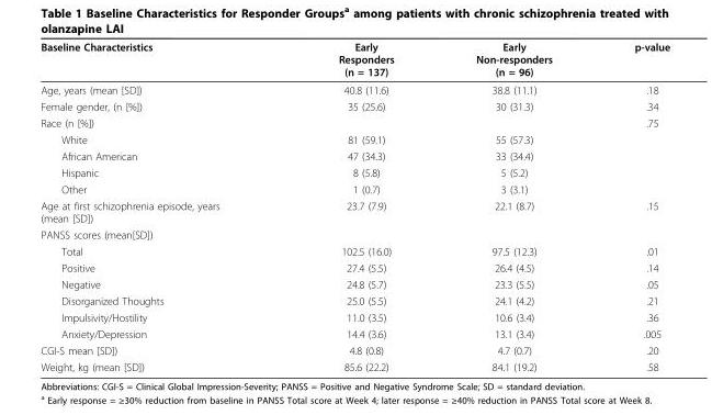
<table><thead><tr><td>Baseline Characteristics</td><td>Early Responders (n = 137)</td><td>Early Non-responders (n = 96)</td><td>p-value</td></tr></thead><tbody><tr><td>Age, years (mean [SD])</td><td>40.8 (11.6)</td><td>38.8 (11.1)</td><td>.18</td></tr><tr><td>Female gender, (n [%])</td><td>35 (25.6)</td><td>30 (31.3)</td><td>.34</td></tr><tr><td>Race (n [%])</td><td></td><td></td><td>.75</td></tr><tr><td>White</td><td>81 (59.1)</td><td>55 (57.3)</td><td></td></tr><tr><td>African American</td><td>47 (34.3)</td><td>33 (34.4)</td><td></td></tr><tr><td>Hispanic</td><td>8 (5.8)</td><td>5 (5.2)</td><td></td></tr><tr><td>Other</td><td>1 (0.7)</td><td>3 (3.1)</td><td></td></tr><tr><td>Age at first schizophrenia episode, years (mean [SD])</td><td>23.7 (7.9)</td><td>22.1 (8.7)</td><td>.15</td></tr><tr><td colspan="4">PANSS scores (mean[SD])</td></tr><tr><td>Total</td><td>102.5 (16.0)</td><td>97.5 (12.3)</td><td>.01</td></tr><tr><td>Positive</td><td>27.4 (5.5)</td><td>26.4 (4.5)</td><td>.14</td></tr><tr><td>Negative</td><td>24.8 (5.7)</td><td>23.3 (5.5)</td><td>.05</td></tr><tr><td>Disorganized Thoughts</td><td>25.0 (5.5)</td><td>24.1 (4.2)</td><td>.21</td></tr><tr><td>Impulsivity/Hostility</td><td>11.0 (3.5)</td><td>10.6 (3.4)</td><td>.36</td></tr><tr><td>Anxiety/Depression</td><td>14.4 (3.6)</td><td>13.1 (3.4)</td><td>.005</td></tr><tr><td>CGI-S mean [SD])</td><td>4.8 (0.8)</td><td>4.7 (0.7)</td><td>.20</td></tr><tr><td>Weight, kg (mean [SD])</td><td>85.6 (22.2)</td><td>84.1 (19.2)</td><td>.58</td></tr></tbody></table>